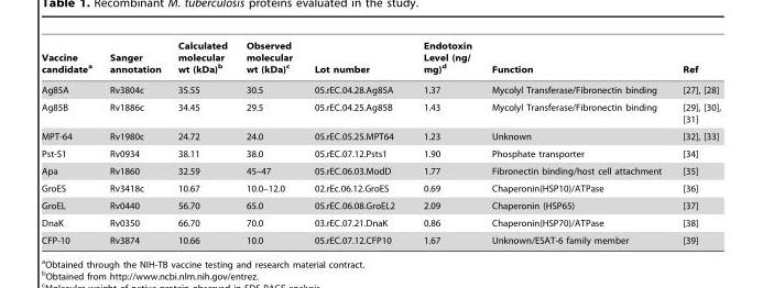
<table><thead><tr><td>Vaccine candidate<sup>a</sup></td><td>Sanger annotation</td><td>Calculated molecular wt (kDa)<sup>b</sup></td><td>Observed molecular wt (kDa)<sup>c</sup></td><td>Lot number</td><td>Endotoxin Level (ng/ mg)<sup>d</sup></td><td>Function</td><td>Ref</td></tr></thead><tbody><tr><td>Ag85A</td><td>Rv3804c</td><td>35.55</td><td>30.5</td><td>05.rEC.04.28.Ag85A</td><td>1.37</td><td>Mycolyl Transferase/Fibronectin binding</td><td>[27], [28]</td></tr><tr><td>Ag85B</td><td>Rv1886c</td><td>34.45</td><td>29.5</td><td>05.rEC.04.25.Ag85B</td><td>1.43</td><td>Mycolyl Transferase/Fibronectin binding</td><td>[29], [30], [31]</td></tr><tr><td>MPT-64</td><td>Rv1980c</td><td>24.72</td><td>24.0</td><td>05.rEC.05.25.MPT64</td><td>1.23</td><td>Unknown</td><td>[32], [33]</td></tr><tr><td>Pst-S1</td><td>Rv0934</td><td>38.11</td><td>38.0</td><td>05.rEC.07.12.Psts1</td><td>1.90</td><td>Phosphate transporter</td><td>[34]</td></tr><tr><td>Apa</td><td>Rv1860</td><td>32.59</td><td>45–47</td><td>05.rEC.06.03.ModD</td><td>1.77</td><td>Fibronectin binding/host cell attachment</td><td>[35]</td></tr><tr><td>GroES</td><td>Rv3418c</td><td>10.67</td><td>10.0–12.0</td><td>02.rEc.06.12.GroES</td><td>0.69</td><td>Chaperonin(HSP10)/ATPase</td><td>[36]</td></tr><tr><td>GroEL</td><td>Rv0440</td><td>56.70</td><td>65.0</td><td>05.rEC.06.08.GroEL2</td><td>2.09</td><td>Chaperonin (HSP65)</td><td>[37]</td></tr><tr><td>DnaK</td><td>Rv0350</td><td>66.70</td><td>70.0</td><td>03.rEC.07.21.DnaK</td><td>0.86</td><td>Chaperonin(HSP70)/ATPase</td><td>[38]</td></tr><tr><td>CFP-10</td><td>Rv3874</td><td>10.66</td><td>10.0</td><td>05.rEC.07.12.CFP10</td><td>1.67</td><td>Unknown/ESAT-6 family member</td><td>[39]</td></tr></tbody></table>